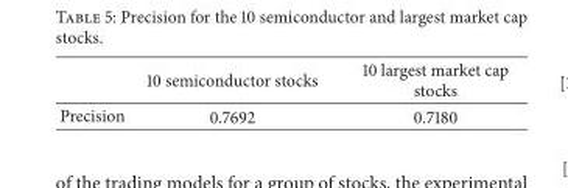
<table><thead><tr><td></td><td>10 semiconductor stocks</td><td>10 largest market cap stocks</td></tr></thead><tbody><tr><td>Precision</td><td>0.7692</td><td>0.7180</td></tr></tbody></table>